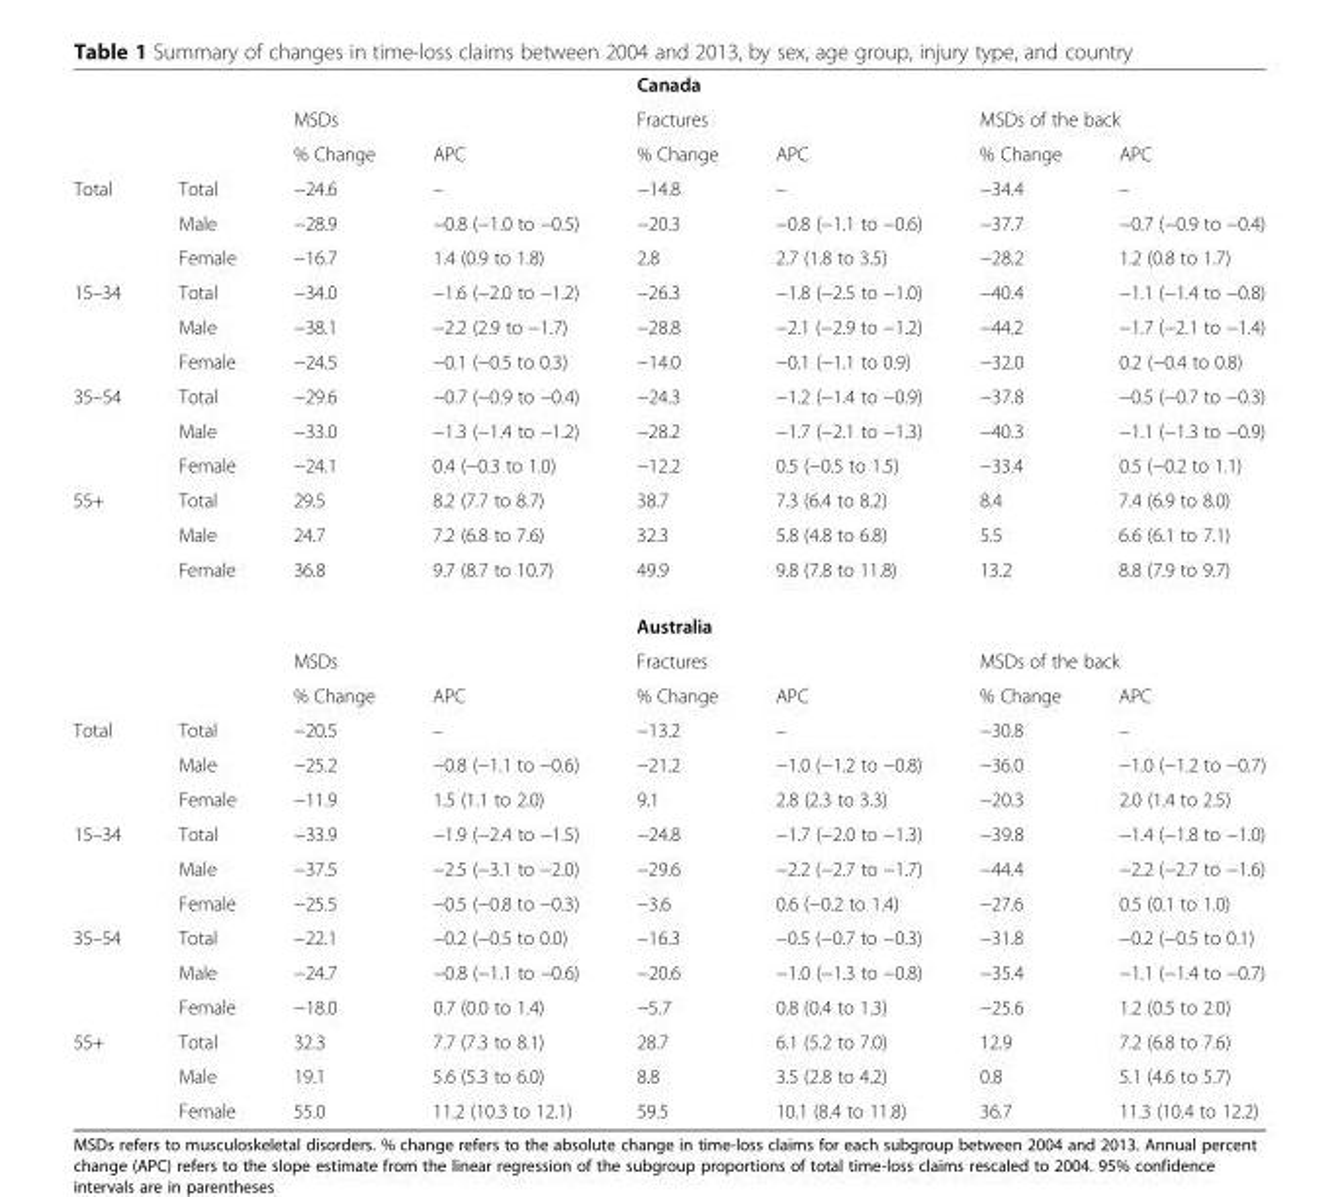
<table><thead><tr><td rowspan="3"></td><td rowspan="3"></td><td></td><td></td><td colspan="4">Canada</td></tr><tr><td colspan="2">MSDs</td><td colspan="2">Fractures</td><td colspan="2">MSDs of the back</td></tr><tr><td>% Change</td><td>APC</td><td>% Change</td><td>APC</td><td>% Change</td><td>APC</td></tr></thead><tbody><tr><td rowspan="3">Total</td><td>Total</td><td>−24.6</td><td>–</td><td>−14.8</td><td>–</td><td>−34.4</td><td>–</td></tr><tr><td>Male</td><td>−28.9</td><td>−0.8 (−1.0 to −0.5)</td><td>−20.3</td><td>−0.8 (−1.1 to −0.6)</td><td>−37.7</td><td>−0.7 (−0.9 to −0.4)</td></tr><tr><td>Female</td><td>−16.7</td><td>1.4 (0.9 to 1.8)</td><td>2.8</td><td>2.7 (1.8 to 3.5)</td><td>−28.2</td><td>1.2 (0.8 to 1.7)</td></tr><tr><td rowspan="3">15–34</td><td>Total</td><td>−34.0</td><td>−1.6 (−2.0 to −1.2)</td><td>−26.3</td><td>−1.8 (−2.5 to −1.0)</td><td>−40.4</td><td>−1.1 (−1.4 to −0.8)</td></tr><tr><td>Male</td><td>−38.1</td><td>−2.2 (2.9 to −1.7)</td><td>−28.8</td><td>−2.1 (−2.9 to −1.2)</td><td>−44.2</td><td>−1.7 (−2.1 to −1.4)</td></tr><tr><td>Female</td><td>−24.5</td><td>−0.1 (−0.5 to 0.3)</td><td>−14.0</td><td>−0.1 (−1.1 to 0.9)</td><td>−32.0</td><td>0.2 (−0.4 to 0.8)</td></tr><tr><td rowspan="3">35–54</td><td>Total</td><td>−29.6</td><td>−0.7 (−0.9 to −0.4)</td><td>−24.3</td><td>−1.2 (−1.4 to −0.9)</td><td>−37.8</td><td>−0.5 (−0.7 to −0.3)</td></tr><tr><td>Male</td><td>−33.0</td><td>−1.3 (−1.4 to −1.2)</td><td>−28.2</td><td>−1.7 (−2.1 to −1.3)</td><td>−40.3</td><td>−1.1 (−1.3 to −0.9)</td></tr><tr><td>Female</td><td>−24.1</td><td>0.4 (−0.3 to 1.0)</td><td>−12.2</td><td>0.5 (−0.5 to 1.5)</td><td>−33.4</td><td>0.5 (−0.2 to 1.1)</td></tr><tr><td rowspan="3">55+</td><td>Total</td><td>29.5</td><td>8.2 (7.7 to 8.7)</td><td>38.7</td><td>7.3 (6.4 to 8.2)</td><td>8.4</td><td>7.4 (6.9 to 8.0)</td></tr><tr><td>Male</td><td>24.7</td><td>7.2 (6.8 to 7.6)</td><td>32.3</td><td>5.8 (4.8 to 6.8)</td><td>5.5</td><td>6.6 (6.1 to 7.1)</td></tr><tr><td>Female</td><td>36.8</td><td>9.7 (8.7 to 10.7)</td><td>49.9</td><td>9.8 (7.8 to 11.8)</td><td>13.2</td><td>8.8 (7.9 to 9.7)</td></tr><tr><td rowspan="3" colspan="2"></td><td colspan="2"></td><td colspan="4">Australia</td></tr><tr><td colspan="2">MSDs</td><td colspan="2">Fractures</td><td colspan="2">MSDs of the back</td></tr><tr><td>% Change</td><td>APC</td><td>% Change</td><td>APC</td><td>% Change</td><td>APC</td></tr><tr><td rowspan="3">Total</td><td>Total</td><td>−20.5</td><td>–</td><td>−13.2</td><td>–</td><td>−30.8</td><td>–</td></tr><tr><td>Male</td><td>−25.2</td><td>−0.8 (−1.1 to −0.6)</td><td>−21.2</td><td>−1.0 (−1.2 to −0.8)</td><td>−36.0</td><td>−1.0 (−1.2 to −0.7)</td></tr><tr><td>Female</td><td>−11.9</td><td>1.5 (1.1 to 2.0)</td><td>9.1</td><td>2.8 (2.3 to 3.3)</td><td>−20.3</td><td>2.0 (1.4 to 2.5)</td></tr><tr><td rowspan="3">15–34</td><td>Total</td><td>−33.9</td><td>−1.9 (−2.4 to −1.5)</td><td>−24.8</td><td>−1.7 (−2.0 to −1.3)</td><td>−39.8</td><td>−1.4 (−1.8 to −1.0)</td></tr><tr><td>Male</td><td>−37.5</td><td>−2.5 (−3.1 to −2.0)</td><td>−29.6</td><td>−2.2 (−2.7 to −1.7)</td><td>−44.4</td><td>−2.2 (−2.7 to −1.6)</td></tr><tr><td>Female</td><td>−25.5</td><td>−0.5 (−0.8 to −0.3)</td><td>−3.6</td><td>0.6 (−0.2 to 1.4)</td><td>−27.6</td><td>0.5 (0.1 to 1.0)</td></tr><tr><td rowspan="3">35–54</td><td>Total</td><td>−22.1</td><td>−0.2 (−0.5 to 0.0)</td><td>−16.3</td><td>−0.5 (−0.7 to −0.3)</td><td>−31.8</td><td>−0.2 (−0.5 to 0.1)</td></tr><tr><td>Male</td><td>−24.7</td><td>−0.8 (−1.1 to −0.6)</td><td>−20.6</td><td>−1.0 (−1.3 to −0.8)</td><td>−35.4</td><td>−1.1 (−1.4 to −0.7)</td></tr><tr><td>Female</td><td>−18.0</td><td>0.7 (0.0 to 1.4)</td><td>−5.7</td><td>0.8 (0.4 to 1.3)</td><td>−25.6</td><td>1.2 (0.5 to 2.0)</td></tr><tr><td rowspan="3">55+</td><td>Total</td><td>32.3</td><td>7.7 (7.3 to 8.1)</td><td>28.7</td><td>6.1 (5.2 to 7.0)</td><td>12.9</td><td>7.2 (6.8 to 7.6)</td></tr><tr><td>Male</td><td>19.1</td><td>5.6 (5.3 to 6.0)</td><td>8.8</td><td>3.5 (2.8 to 4.2)</td><td>0.8</td><td>5.1 (4.6 to 5.7)</td></tr><tr><td>Female</td><td>55.0</td><td>11.2 (10.3 to 12.1)</td><td>59.5</td><td>10.1 (8.4 to 11.8)</td><td>36.7</td><td>11.3 (10.4 to 12.2)</td></tr></tbody></table>